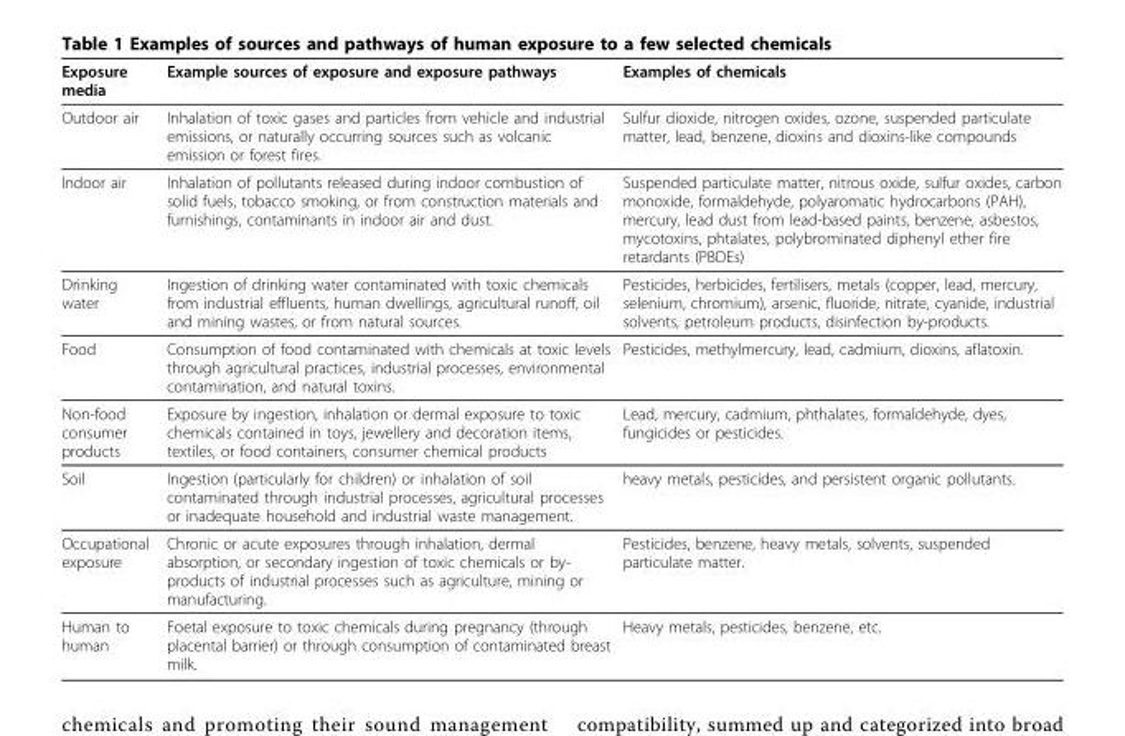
<table><thead><tr><td>Exposure media</td><td>Example sources of exposure and exposure pathways</td><td>Examples of chemicals</td></tr></thead><tbody><tr><td>Outdoor air</td><td>Inhalation of toxic gases and particles from vehicle and industrial emissions, or naturally occurring sources such as volcanic emission or forest fires.</td><td>Sulfur dioxide, nitrogen oxides, ozone, suspended particulate matter, lead, benzene, dioxins and dioxins-like compounds</td></tr><tr><td>Indoor air</td><td>Inhalation of pollutants released during indoor combustion of solid fuels, tobacco smoking, or from construction materials and furnishings, contaminants in indoor air and dust.</td><td>Suspended particulate matter, nitrous oxide, sulfur oxides, carbon monoxide, formaldehyde, polyaromatic hydrocarbons (PAH), mercury, lead dust from lead-based paints, benzene, asbestos, mycotoxins, phtalates, polybrominated diphenyl ether fire retardants (PBDEs)</td></tr><tr><td>Drinking water</td><td>Ingestion of drinking water contaminated with toxic chemicals from industrial effluents, human dwellings, agricultural runoff, oil and mining wastes, or from natural sources.</td><td>Pesticides, herbicides, fertilisers, metals (copper, lead, mercury, selenium, chromium), arsenic, fluoride, nitrate, cyanide, industrial solvents, petroleum products, disinfection by-products.</td></tr><tr><td>Food</td><td>Consumption of food contaminated with chemicals at toxic levels through agricultural practices, industrial processes, environmental contamination, and natural toxins.</td><td>Pesticides, methylmercury, lead, cadmium, dioxins, aflatoxin.</td></tr><tr><td>Non-food consumer products</td><td>Exposure by ingestion, inhalation or dermal exposure to toxic chemicals contained in toys, jewellery and decoration items, textiles, or food containers, consumer chemical products</td><td>Lead, mercury, cadmium, phthalates, formaldehyde, dyes, fungicides or pesticides.</td></tr><tr><td>Soil</td><td>Ingestion (particularly for children) or inhalation of soil contaminated through industrial processes, agricultural processes or inadequate household and industrial waste management.</td><td>heavy metals, pesticides, and persistent organic pollutants.</td></tr><tr><td>Occupational exposure</td><td>Chronic or acute exposures through inhalation, dermal absorption, or secondary ingestion of toxic chemicals or by- products of industrial processes such as agriculture, mining or manufacturing.</td><td>Pesticides, benzene, heavy metals, solvents, suspended particulate matter.</td></tr><tr><td>Human to human</td><td>Foetal exposure to toxic chemicals during pregnancy (through placental barrier) or through consumption of contaminated breast milk.</td><td>Heavy metals, pesticides, benzene, etc.</td></tr></tbody></table>